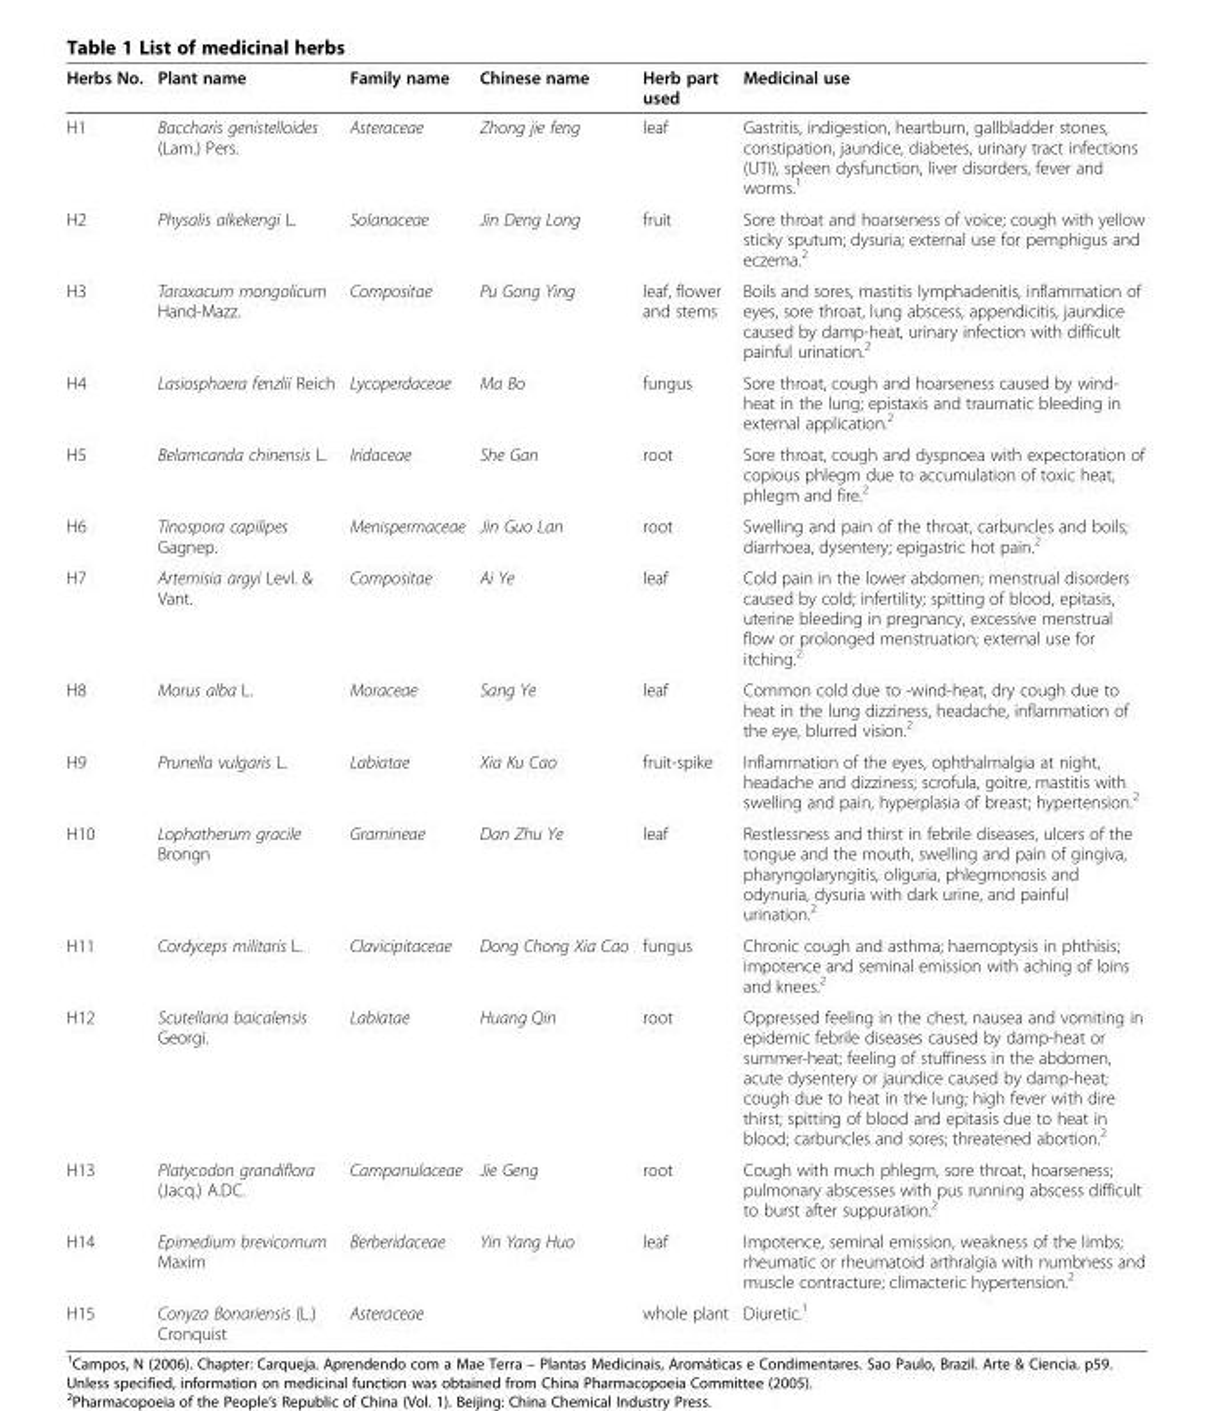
<table><thead><tr><td>Herbs No.</td><td>Plant name</td><td>Family name</td><td>Chinese name</td><td>Herb part used</td><td>Medicinal use</td></tr></thead><tbody><tr><td>H1</td><td>Baccharis genistelloides (Lam.) Pers.</td><td>Asteraceae</td><td>Zhong jie feng</td><td>leaf</td><td>Gastritis, indigestion, heartburn, gallbladder stones, constipation, jaundice, diabetes, urinary tract infections (UTI), spleen dysfunction, liver disorders, fever and worms.<sup>1</sup></td></tr><tr><td>H2</td><td>Physalis alkekengi L.</td><td>Solanaceae</td><td>Jin Deng Long</td><td>fruit</td><td>Sore throat and hoarseness of voice; cough with yellow sticky sputum; dysuria; external use for pemphigus and eczema.<sup>2</sup></td></tr><tr><td>H3</td><td>Taraxacum mongolicum Hand-Mazz.</td><td>Compositae</td><td>Pu Gong Ying</td><td>leaf, flower and stems</td><td>Boils and sores, mastitis lymphadenitis, inflammation of eyes, sore throat, lung abscess, appendicitis, jaundice caused by damp-heat, urinary infection with difficult painful urination.<sup>2</sup></td></tr><tr><td>H4</td><td>Lasiosphaera fenzlii Reich</td><td>Lycoperdaceae</td><td>Ma Bo</td><td>fungus</td><td>Sore throat, cough and hoarseness caused by wind- heat in the lung; epistaxis and traumatic bleeding in external application.<sup>2</sup></td></tr><tr><td>H5</td><td>Belamcanda chinensis L.</td><td>Iridaceae</td><td>She Gan</td><td>root</td><td>Sore throat, cough and dyspnoea with expectoration of copious phlegm due to accumulation of toxic heat, phlegm and fire.<sup>2</sup></td></tr><tr><td>H6</td><td>Tinospora capilipes Gagnep.</td><td>Menispermaceae</td><td>Jin Guo Lan</td><td>root</td><td>Swelling and pain of the throat, carbuncles and boils; diarrhoea, dysentery; epigastric hot pain.<sup>2</sup></td></tr><tr><td>H7</td><td>Artemisia argyi Levl. &amp; Vant.</td><td>Compositae</td><td>Ai Ye</td><td>leaf</td><td>Cold pain in the lower abdomen; menstrual disorders caused by cold; infertility; spitting of blood, epitasis, uterine bleeding in pregnancy, excessive menstrual flow or prolonged menstruation; external use for itching.<sup>2</sup></td></tr><tr><td>H8</td><td>Morus alba L.</td><td>Moraceae</td><td>Sang Ye</td><td>leaf</td><td>Common cold due to -wind-heat, dry cough due to heat in the lung dizziness, headache, inflammation of the eye, blurred vision.<sup>2</sup></td></tr><tr><td>H9</td><td>Prunella vulgaris L.</td><td>Labiatae</td><td>Xia Ku Cao</td><td>fruit-spike</td><td>Inflammation of the eyes, ophthalmalgia at night, headache and dizziness; scrofula, goitre, mastitis with swelling and pain, hyperplasia of breast; hypertension.<sup>2</sup></td></tr><tr><td>H10</td><td>Lophatherum gracile Brongn</td><td>Gramineae</td><td>Dan Zhu Ye</td><td>leaf</td><td>Restlessness and thirst in febrile diseases, ulcers of the tongue and the mouth, swelling and pain of gingiva, pharyngolaryngitis, oliguria, phlegmonosis and odynuria, dysuria with dark urine, and painful urination.<sup>2</sup></td></tr><tr><td>H11</td><td>Cordyceps militaris L.</td><td>Clavicipitaceae</td><td>Dong Chong Xia Cao</td><td>fungus</td><td>Chronic cough and asthma; haemoptysis in phthisis; impotence and seminal emission with aching of loins and knees.<sup>2</sup></td></tr><tr><td>H12</td><td>Scutellaria baicalensis Georgi.</td><td>Labiatae</td><td>Huang Qin</td><td>root</td><td>Oppressed feeling in the chest, nausea and vomiting in epidemic febrile diseases caused by damp-heat or summer-heat; feeling of stuffiness in the abdomen, acute dysentery or jaundice caused by damp-heat; cough due to heat in the lung; high fever with dire thirst; spitting of blood and epitasis due to heat in blood; carbuncles and sores; threatened abortion.<sup>2</sup></td></tr><tr><td>H13</td><td>Platycodon grandiflora (Jacq.) A.DC.</td><td>Campanulaceae</td><td>Jie Geng</td><td>root</td><td>Cough with much phlegm, sore throat, hoarseness; pulmonary abscesses with pus running abscess difficult to burst after suppuration.<sup>2</sup></td></tr><tr><td>H14</td><td>Epimedium brevicornum Maxim</td><td>Berberidaceae</td><td>Yin Yang Huo</td><td>leaf</td><td>Impotence, seminal emission, weakness of the limbs; rheumatic or rheumatoid arthralgia with numbness and muscle contracture; climacteric hypertension.<sup>2</sup></td></tr><tr><td>H15</td><td>Conyza Bonariensis (L.) Cronquist</td><td>Asteraceae</td><td></td><td>whole plant</td><td>Diuretic.<sup>1</sup></td></tr></tbody></table>